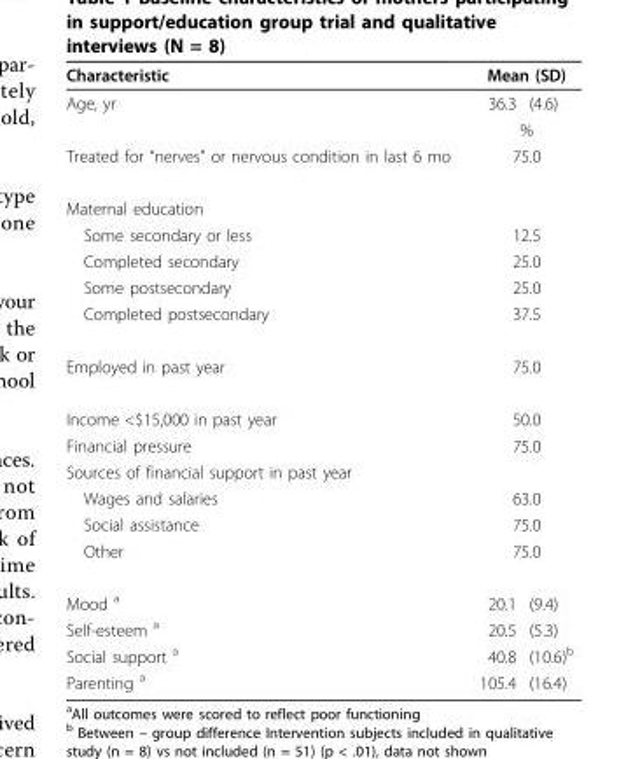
<table><thead><tr><td rowspan="2">Characteristic Age, yr</td><td colspan="2">Mean (SD)</td></tr><tr><td>36.3</td><td>(4.6)</td></tr></thead><tbody><tr><td></td><td colspan="2">%</td></tr><tr><td>Treated for “nerves” or nervous condition in last 6 mo</td><td colspan="2">75.0</td></tr><tr><td colspan="3">Maternal education</td></tr><tr><td>Some secondary or less</td><td colspan="2">12.5</td></tr><tr><td>Completed secondary</td><td colspan="2">25.0</td></tr><tr><td>Some postsecondary</td><td colspan="2">25.0</td></tr><tr><td>Completed postsecondary</td><td colspan="2">37.5</td></tr><tr><td>Employed in past year</td><td colspan="2">75.0</td></tr><tr><td>Income &lt;$15,000 in past year</td><td colspan="2">50.0</td></tr><tr><td>Financial pressure</td><td colspan="2">75.0</td></tr><tr><td colspan="3">Sources of financial support in past year</td></tr><tr><td>Wages and salaries</td><td colspan="2">63.0</td></tr><tr><td>Social assistance</td><td colspan="2">75.0</td></tr><tr><td>Other</td><td colspan="2">75.0</td></tr><tr><td>Mood <sup>a</sup></td><td>20.1</td><td>(9.4)</td></tr><tr><td>Self-esteem <sup>a</sup></td><td>20.5</td><td>(5.3)</td></tr><tr><td>Social support <sup>a</sup></td><td>40.8</td><td>(10.6)<sup>b</sup></td></tr><tr><td>Parenting <sup>a</sup></td><td>105.4</td><td>(16.4)</td></tr></tbody></table>